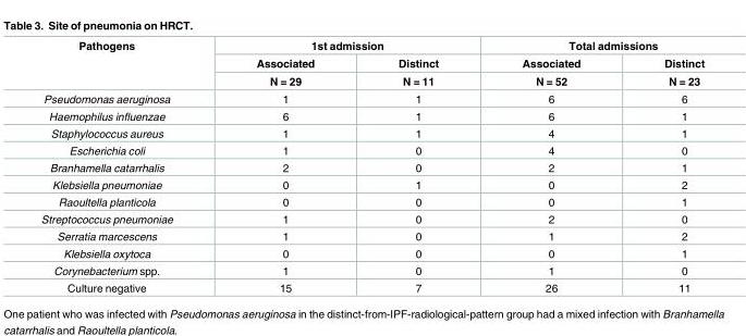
<table><thead><tr><td rowspan="3">Pathogens</td><td colspan="2">1st admission</td><td colspan="2">Total admissions</td></tr><tr><td rowspan="2">Associated N = 29</td><td rowspan="2">Distinct N = 11</td><td rowspan="2">Associated N = 52</td><td rowspan="2">Distinct N = 23</td></tr><tr></tr></thead><tbody><tr><td>Pseudomonas aeruginosa</td><td>1</td><td>1</td><td>6</td><td>6</td></tr><tr><td>Haemophilus influenzae</td><td>6</td><td>1</td><td>6</td><td>1</td></tr><tr><td>Staphylococcus aureus</td><td>1</td><td>1</td><td>4</td><td>1</td></tr><tr><td>Escherichia coli</td><td>1</td><td>0</td><td>4</td><td>0</td></tr><tr><td>Branhamella catarrhalis</td><td>2</td><td>0</td><td>2</td><td>1</td></tr><tr><td>Klebsiella pneumoniae</td><td>0</td><td>1</td><td>0</td><td>2</td></tr><tr><td>Raoultella planticola</td><td>0</td><td>0</td><td>0</td><td>1</td></tr><tr><td>Streptococcus pneumoniae</td><td>1</td><td>0</td><td>2</td><td>0</td></tr><tr><td>Serratia marcescens</td><td>1</td><td>0</td><td>1</td><td>2</td></tr><tr><td>Klebsiella oxytoca</td><td>0</td><td>0</td><td>0</td><td>1</td></tr><tr><td>Corynebacterium spp.</td><td>1</td><td>0</td><td>1</td><td>0</td></tr><tr><td>Culture negative</td><td>15</td><td>7</td><td>26</td><td>11</td></tr></tbody></table>